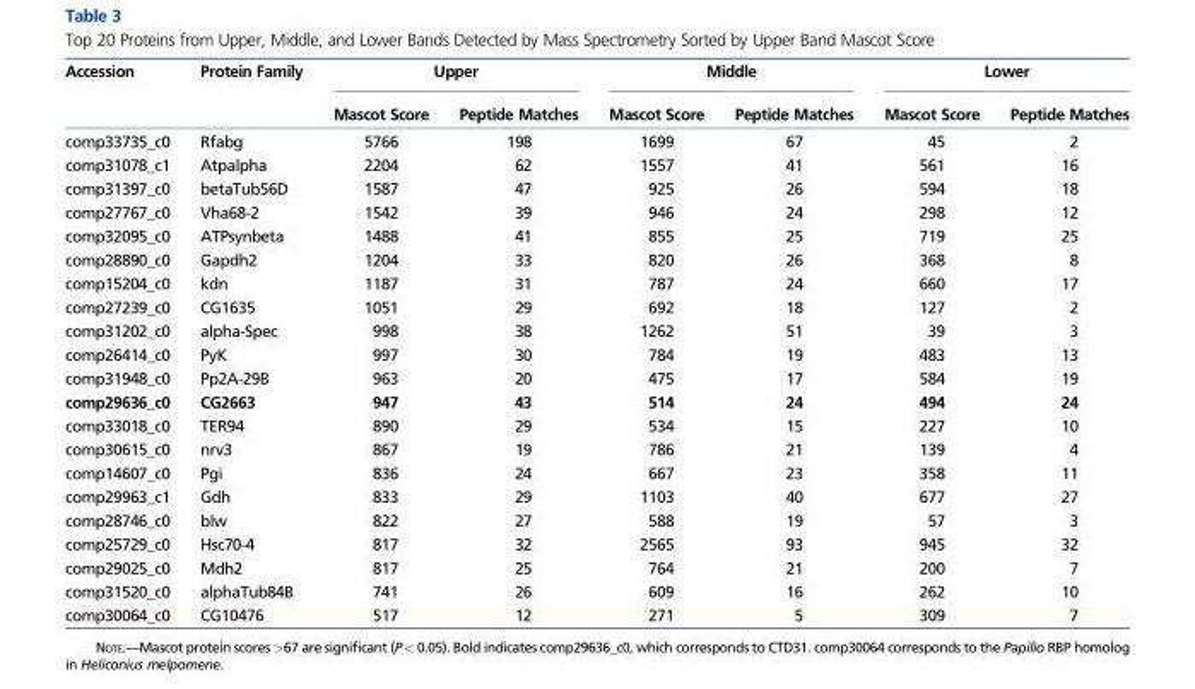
<table><thead><tr><td rowspan="2">Accession</td><td rowspan="2">Protein Family</td><td colspan="2">Upper</td><td colspan="2">Middle</td><td colspan="2">Lower</td></tr><tr><td>Mascot Score</td><td>Peptide Matches</td><td>Mascot Score</td><td>Peptide Matches</td><td>Mascot Score</td><td>Peptide Matches</td></tr></thead><tbody><tr><td>comp33735_c0</td><td>Rfabg</td><td>5766</td><td>198</td><td>1699</td><td>67</td><td>45</td><td>2</td></tr><tr><td>comp31078_c1</td><td>Atpalpha</td><td>2204</td><td>62</td><td>1557</td><td>41</td><td>561</td><td>16</td></tr><tr><td>comp31397_c0</td><td>betaTub56D</td><td>1587</td><td>47</td><td>925</td><td>26</td><td>594</td><td>18</td></tr><tr><td>comp27767_c0</td><td>Vha68-2</td><td>1542</td><td>39</td><td>946</td><td>24</td><td>298</td><td>12</td></tr><tr><td>comp32095_c0</td><td>ATPsynbeta</td><td>1488</td><td>41</td><td>855</td><td>25</td><td>719</td><td>25</td></tr><tr><td>comp28890_c0</td><td>Gapdh2</td><td>1204</td><td>33</td><td>820</td><td>26</td><td>368</td><td>8</td></tr><tr><td>comp15204_c0</td><td>kdn</td><td>1187</td><td>31</td><td>787</td><td>24</td><td>660</td><td>17</td></tr><tr><td>comp27239_c0</td><td>CG1635</td><td>1051</td><td>29</td><td>692</td><td>18</td><td>127</td><td>2</td></tr><tr><td>comp31202_c0</td><td>alpha-Spec</td><td>998</td><td>38</td><td>1262</td><td>51</td><td>39</td><td>3</td></tr><tr><td>comp26414_c0</td><td>PyK</td><td>997</td><td>30</td><td>784</td><td>19</td><td>483</td><td>13</td></tr><tr><td>comp31948_c0</td><td>Pp2A-29B</td><td>963</td><td>20</td><td>475</td><td>17</td><td>584</td><td>19</td></tr><tr><td>comp29636_c0</td><td>CG2663</td><td>947</td><td>43</td><td>514</td><td>24</td><td>494</td><td>24</td></tr><tr><td>comp33018_c0</td><td>TER94</td><td>890</td><td>29</td><td>534</td><td>15</td><td>227</td><td>10</td></tr><tr><td>comp30615_c0</td><td>nrv3</td><td>867</td><td>19</td><td>786</td><td>21</td><td>139</td><td>4</td></tr><tr><td>comp14607_c0</td><td>Pgi</td><td>836</td><td>24</td><td>667</td><td>23</td><td>358</td><td>11</td></tr><tr><td>comp29963_c1</td><td>Gdh</td><td>833</td><td>29</td><td>1103</td><td>40</td><td>677</td><td>27</td></tr><tr><td>comp28746_c0</td><td>blw</td><td>822</td><td>27</td><td>588</td><td>19</td><td>57</td><td>3</td></tr><tr><td>comp25729_c0</td><td>Hsc70-4</td><td>817</td><td>32</td><td>2565</td><td>93</td><td>945</td><td>32</td></tr><tr><td>comp29025_c0</td><td>Mdh2</td><td>817</td><td>25</td><td>764</td><td>21</td><td>200</td><td>7</td></tr><tr><td>comp31520_c0</td><td>alphaTub84B</td><td>741</td><td>26</td><td>609</td><td>16</td><td>262</td><td>10</td></tr><tr><td>comp30064_c0</td><td>CG10476</td><td>517</td><td>12</td><td>271</td><td>5</td><td>309</td><td>7</td></tr></tbody></table>